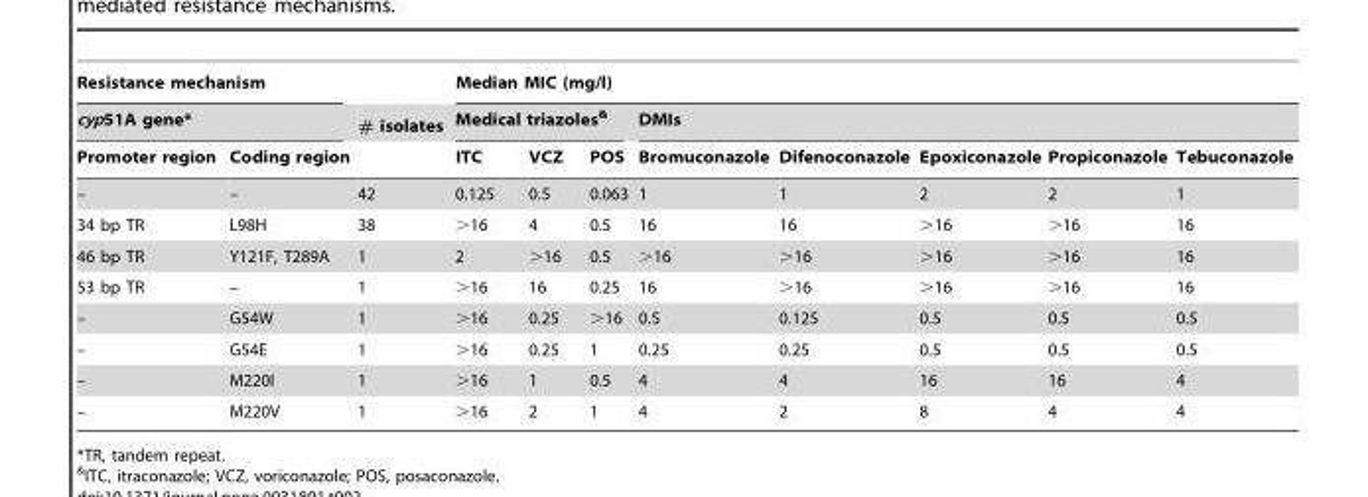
<table><thead><tr><td rowspan="2" colspan="2">Resistance mechanism cyp51A gene*</td><td rowspan="3"># isolates</td><td colspan="8">Median MIC (mg/l)</td></tr><tr><td colspan="3">Medical triazoles&amp;</td><td colspan="5">DMIs</td></tr><tr><td>Promoter region</td><td>Coding region</td><td>ITC</td><td>VCZ</td><td>POS</td><td>Bromuconazole</td><td>Difenoconazole</td><td>Epoxiconazole</td><td>Propiconazole</td><td>Tebuconazole</td></tr></thead><tbody><tr><td>–</td><td>–</td><td>42</td><td>0.125</td><td>0.5</td><td>0.063</td><td>1</td><td>1</td><td>2</td><td>2</td><td>1</td></tr><tr><td>34 bp TR</td><td>L98H</td><td>38</td><td>&gt;16</td><td>4</td><td>0.5</td><td>16</td><td>16</td><td>&gt;16</td><td>&gt;16</td><td>16</td></tr><tr><td>46 bp TR</td><td>Y121F, T289A</td><td>1</td><td>2</td><td>&gt;16</td><td>0.5</td><td>&gt;16</td><td>&gt;16</td><td>&gt;16</td><td>&gt;16</td><td>16</td></tr><tr><td>53 bp TR</td><td>–</td><td>1</td><td>&gt;16</td><td>16</td><td>0.25</td><td>16</td><td>&gt;16</td><td>&gt;16</td><td>&gt;16</td><td>16</td></tr><tr><td>–</td><td>G54W</td><td>1</td><td>&gt;16</td><td>0.25</td><td>&gt;16</td><td>0.5</td><td>0.125</td><td>0.5</td><td>0.5</td><td>0.5</td></tr><tr><td>–</td><td>G54E</td><td>1</td><td>&gt;16</td><td>0.25</td><td>1</td><td>0.25</td><td>0.25</td><td>0.5</td><td>0.5</td><td>0.5</td></tr><tr><td>–</td><td>M220I</td><td>1</td><td>&gt;16</td><td>1</td><td>0.5</td><td>4</td><td>4</td><td>16</td><td>16</td><td>4</td></tr><tr><td>–</td><td>M220V</td><td>1</td><td>&gt;16</td><td>2</td><td>1</td><td>4</td><td>2</td><td>8</td><td>4</td><td>4</td></tr></tbody></table>